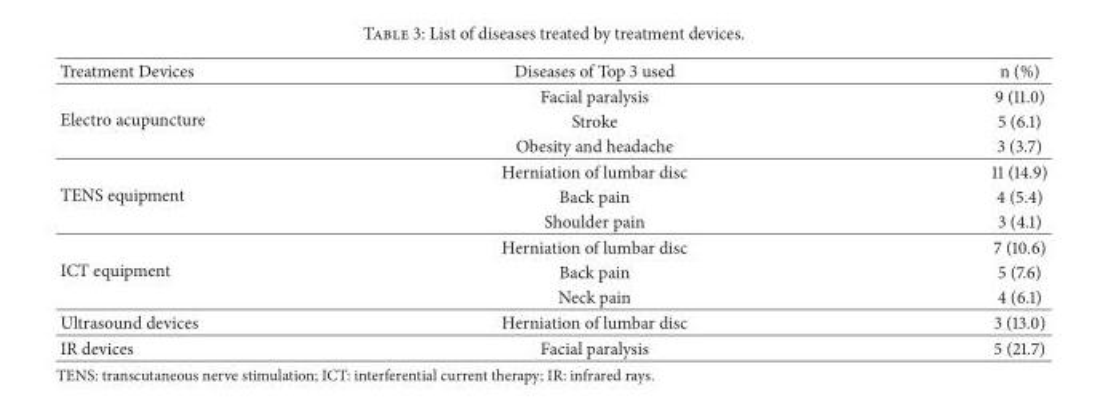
<table><thead><tr><td>Treatment Devices</td><td>Diseases of Top 3 used</td><td>n (%)</td></tr></thead><tbody><tr><td rowspan="3">Electro acupuncture</td><td>Facial paralysis</td><td>9 (11.0)</td></tr><tr><td>Stroke</td><td>5 (6.1)</td></tr><tr><td>Obesity and headache</td><td>3 (3.7)</td></tr><tr><td rowspan="3">TENS equipment</td><td>Herniation of lumbar disc</td><td>11 (14.9)</td></tr><tr><td>Back pain</td><td>4 (5.4)</td></tr><tr><td>Shoulder pain</td><td>3 (4.1)</td></tr><tr><td rowspan="3">ICT equipment</td><td>Herniation of lumbar disc</td><td>7 (10.6)</td></tr><tr><td>Back pain</td><td>5 (7.6)</td></tr><tr><td>Neck pain</td><td>4 (6.1)</td></tr><tr><td>Ultrasound devices</td><td>Herniation of lumbar disc</td><td>3 (13.0)</td></tr><tr><td>IR devices</td><td>Facial paralysis</td><td>5 (21.7)</td></tr></tbody></table>